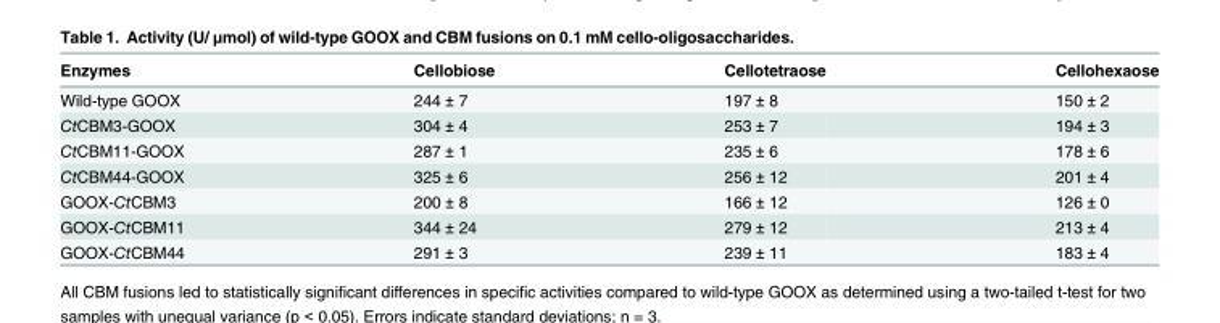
<table><thead><tr><td>Enzymes</td><td>Cellobiose</td><td>Cellotetraose</td><td>Cellohexaose</td></tr></thead><tbody><tr><td>Wild-type GOOX</td><td>244 ± 7</td><td>197 ± 8</td><td>150 ± 2</td></tr><tr><td>CtCBM3-GOOX</td><td>304 ± 4</td><td>253 ± 7</td><td>194 ± 3</td></tr><tr><td>CtCBM11-GOOX</td><td>287 ± 1</td><td>235 ± 6</td><td>178 ± 6</td></tr><tr><td>CtCBM44-GOOX</td><td>325 ± 6</td><td>256 ± 12</td><td>201 ± 4</td></tr><tr><td>GOOX-CtCBM3</td><td>200 ± 8</td><td>166 ± 12</td><td>126 ± 0</td></tr><tr><td>GOOX-CtCBM11</td><td>344 ± 24</td><td>279 ± 12</td><td>213 ± 4</td></tr><tr><td>GOOX-CtCBM44</td><td>291 ± 3</td><td>239 ± 11</td><td>183 ± 4</td></tr></tbody></table>